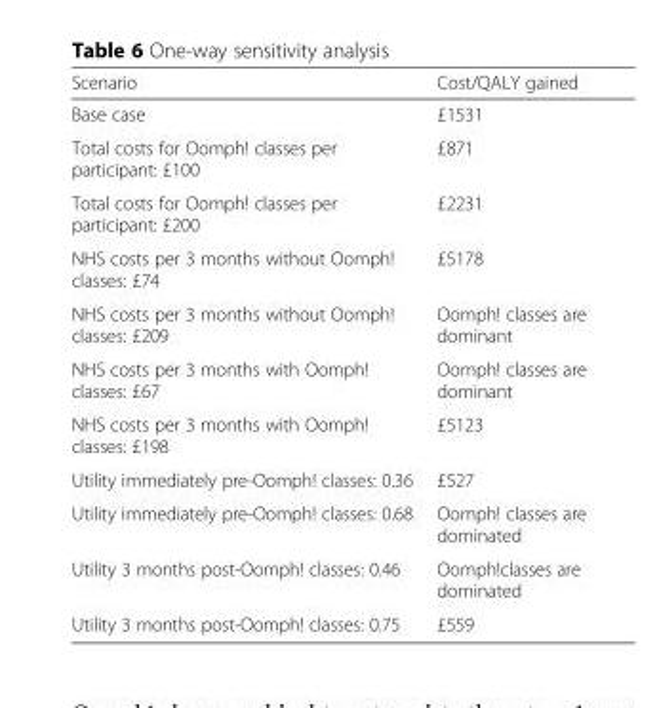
<table><thead><tr><td>Scenario</td><td>Cost/QALY gained</td></tr></thead><tbody><tr><td>Base case</td><td>£1531</td></tr><tr><td>Total costs for Oomph! classes per participant: £100</td><td>£871</td></tr><tr><td>Total costs for Oomph! classes per participant: £200</td><td>£2231</td></tr><tr><td>NHS costs per 3 months without Oomph! classes: £74</td><td>£5178</td></tr><tr><td>NHS costs per 3 months without Oomph! classes: £209</td><td>Oomph! classes are dominant</td></tr><tr><td>NHS costs per 3 months with Oomph! classes: £67</td><td>Oomph! classes are dominant</td></tr><tr><td>NHS costs per 3 months with Oomph! classes: £198</td><td>£5123</td></tr><tr><td>Utility immediately pre-Oomph! classes: 0.36</td><td>£527</td></tr><tr><td>Utility immediately pre-Oomph! classes: 0.68</td><td>Oomph! classes are dominated</td></tr><tr><td>Utility 3 months post-Oomph! classes: 0.46</td><td>Oomph!classes are dominated</td></tr><tr><td>Utility 3 months post-Oomph! classes: 0.75</td><td>£559</td></tr></tbody></table>